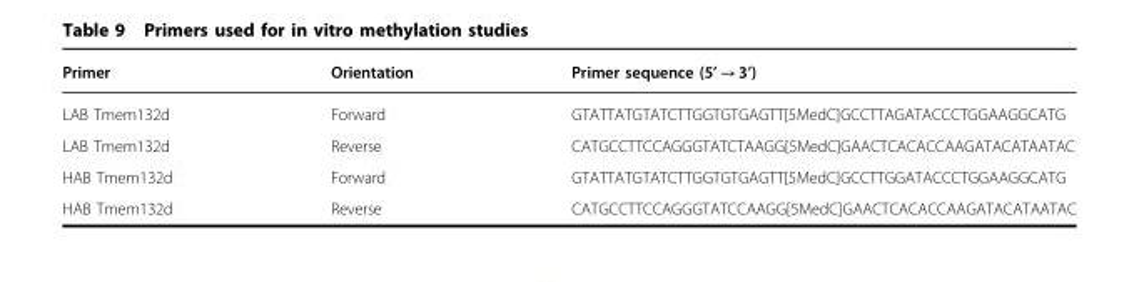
<table><thead><tr><td>Primer</td><td>Orientation</td><td>Primer sequence (5’ → 3’)</td></tr></thead><tbody><tr><td>LAB Tmem132d</td><td>Forward</td><td>GTATTATGTATCTTGGTGTGAGTT[5MedC]GCCTTAGATACCCTGGAAGGCATG</td></tr><tr><td>LAB Tmem132d</td><td>Reverse</td><td>CATGCCTTCCAGGGTATCTAAGG[5MedC]GAACTCACACCAAGATACATAATAC</td></tr><tr><td>HAB Tmem132d</td><td>Forward</td><td>GTATTATGTATCTTGGTGTGAGTT[5MedC]GCCTTGGATACCCTGGAAGGCATG</td></tr><tr><td>HAB Tmem132d</td><td>Reverse</td><td>CATGCCTTCCAGGGTATCCAAGG[5MedC]GAACTCACACCAAGATACATAATAC</td></tr></tbody></table>